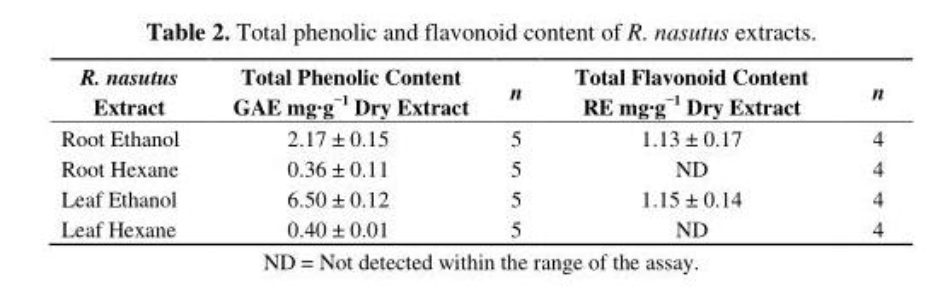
<table><thead><tr><td>R. nasutus Extract</td><td>Total Phenolic Content GAE mg·g<sup>−1</sup> Dry Extract</td><td>n</td><td>Total Flavonoid Content RE mg·g<sup>−1</sup> Dry Extract</td><td>n</td></tr></thead><tbody><tr><td>Root Ethanol</td><td>2.17 ± 0.15</td><td>5</td><td>1.13 ± 0.17</td><td>4</td></tr><tr><td>Root Hexane</td><td>0.36 ± 0.11</td><td>5</td><td>ND</td><td>4</td></tr><tr><td>Leaf Ethanol</td><td>6.50 ± 0.12</td><td>5</td><td>1.15 ± 0.14</td><td>4</td></tr><tr><td>Leaf Hexane</td><td>0.40 ± 0.01</td><td>5</td><td>ND</td><td>4</td></tr></tbody></table>